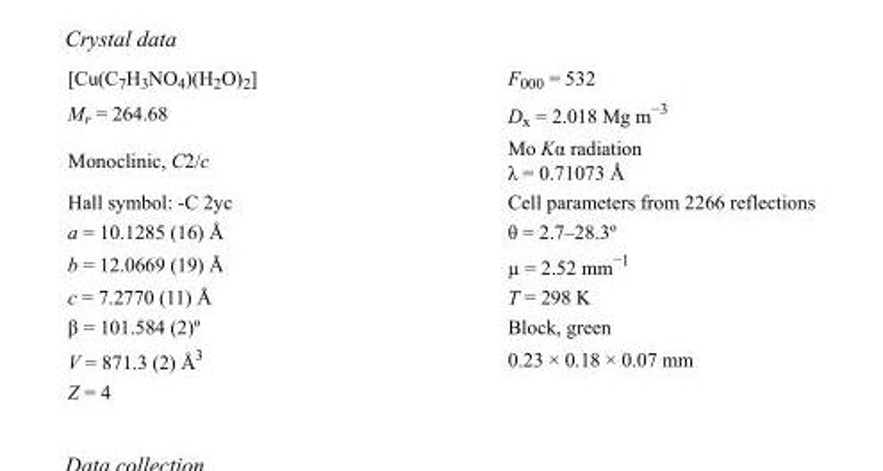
<table><tbody><tr><td>[Cu(C<sub>7</sub>H<sub>3</sub>NO<sub>4</sub>)(H<sub>2</sub>O)<sub>2</sub>]</td><td>F000 = 532</td></tr><tr><td>M<sub>r</sub> = 264.68</td><td>D<sub>x</sub> = 2.018 Mg m<sup>−3</sup></td></tr><tr><td>Monoclinic, C2/c</td><td>Mo Kα radiation λ = 0.71073 Å</td></tr><tr><td>Hall symbol: -C 2yc</td><td>Cell parameters from 2266 reflections</td></tr><tr><td>a = 10.1285 (16) Å</td><td>θ = 2.7–28.3º</td></tr><tr><td>b = 12.0669 (19) Å</td><td>µ = 2.52 mm<sup>−1</sup></td></tr><tr><td>c = 7.2770 (11) Å</td><td>T = 298 K</td></tr><tr><td>β = 101.584 (2)º</td><td>Block, green</td></tr><tr><td>V = 871.3 (2) Å<sup>3</sup></td><td>0.23 × 0.18 × 0.07 mm</td></tr><tr><td>Z = 4</td><td></td></tr></tbody></table>